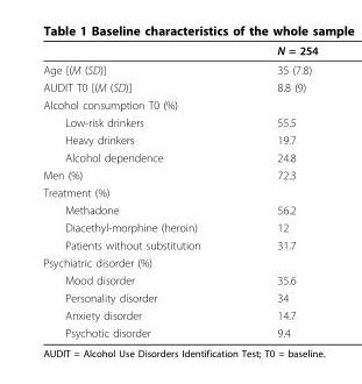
<table><thead><tr><td></td><td>N = 254</td></tr></thead><tbody><tr><td>Age [(M (SD)]</td><td>35 (7.8)</td></tr><tr><td>AUDIT T0 [(M (SD)]</td><td>8.8 (9)</td></tr><tr><td colspan="2">Alcohol consumption T0 (%)</td></tr><tr><td>Low-risk drinkers</td><td>55.5</td></tr><tr><td>Heavy drinkers</td><td>19.7</td></tr><tr><td>Alcohol dependence</td><td>24.8</td></tr><tr><td>Men (%)</td><td>72.3</td></tr><tr><td colspan="2">Treatment (%)</td></tr><tr><td>Methadone</td><td>56.2</td></tr><tr><td>Diacethyl-morphine (heroin)</td><td>12</td></tr><tr><td>Patients without substitution</td><td>31.7</td></tr><tr><td colspan="2">Psychiatric disorder (%)</td></tr><tr><td>Mood disorder</td><td>35.6</td></tr><tr><td>Personality disorder</td><td>34</td></tr><tr><td>Anxiety disorder</td><td>14.7</td></tr><tr><td>Psychotic disorder</td><td>9.4</td></tr></tbody></table>